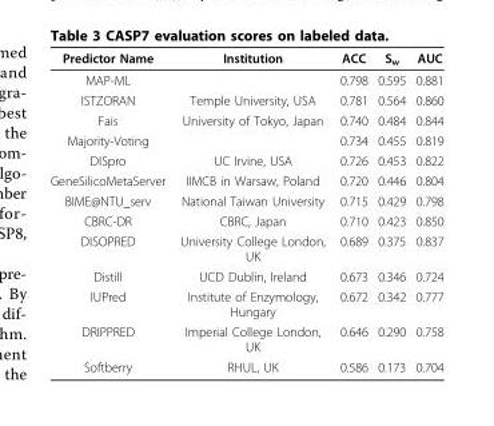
<table><thead><tr><td>Predictor Name</td><td>Institution</td><td>ACC</td><td>S<sub>w</sub></td><td>AUC</td></tr></thead><tbody><tr><td>MAP-ML</td><td></td><td>0.798</td><td>0.595</td><td>0.881</td></tr><tr><td>ISTZORAN</td><td>Temple University, USA</td><td>0.781</td><td>0.564</td><td>0.860</td></tr><tr><td>Fais</td><td>University of Tokyo, Japan</td><td>0.740</td><td>0.484</td><td>0.844</td></tr><tr><td>Majority-Voting</td><td></td><td>0.734</td><td>0.455</td><td>0.819</td></tr><tr><td>DISpro</td><td>UC Irvine, USA</td><td>0.726</td><td>0.453</td><td>0.822</td></tr><tr><td>GeneSilicoMetaServer</td><td>IIMCB in Warsaw, Poland</td><td>0.720</td><td>0.446</td><td>0.804</td></tr><tr><td>BIME@NTU_serv</td><td>National Taiwan University</td><td>0.715</td><td>0.429</td><td>0.798</td></tr><tr><td>CBRC-DR</td><td>CBRC, Japan</td><td>0.710</td><td>0.423</td><td>0.850</td></tr><tr><td>DISOPRED</td><td>University College London, UK</td><td>0.689</td><td>0.375</td><td>0.837</td></tr><tr><td>Distill</td><td>UCD Dublin, Ireland</td><td>0.673</td><td>0.346</td><td>0.724</td></tr><tr><td>IUPred</td><td>Institute of Enzymology, Hungary</td><td>0.672</td><td>0.342</td><td>0.777</td></tr><tr><td>DRIPPRED</td><td>Imperial College London, UK</td><td>0.646</td><td>0.290</td><td>0.758</td></tr><tr><td>Softberry</td><td>RHUL, UK</td><td>0.586</td><td>0.173</td><td>0.704</td></tr></tbody></table>